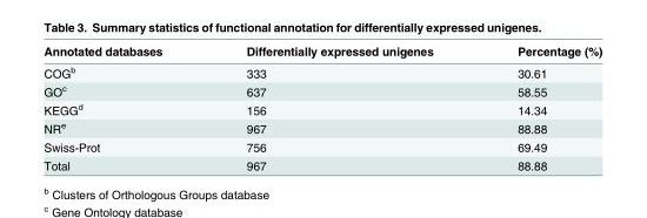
<table><thead><tr><td>Annotated databases</td><td>Differentially expressed unigenes</td><td>Percentage (%)</td></tr></thead><tbody><tr><td>COG<sup>b</sup></td><td>333</td><td>30.61</td></tr><tr><td>GO<sup>c</sup></td><td>637</td><td>58.55</td></tr><tr><td>KEGG<sup>d</sup></td><td>156</td><td>14.34</td></tr><tr><td>NR<sup>e</sup></td><td>967</td><td>88.88</td></tr><tr><td>Swiss-Prot</td><td>756</td><td>69.49</td></tr><tr><td>Total</td><td>967</td><td>88.88</td></tr></tbody></table>